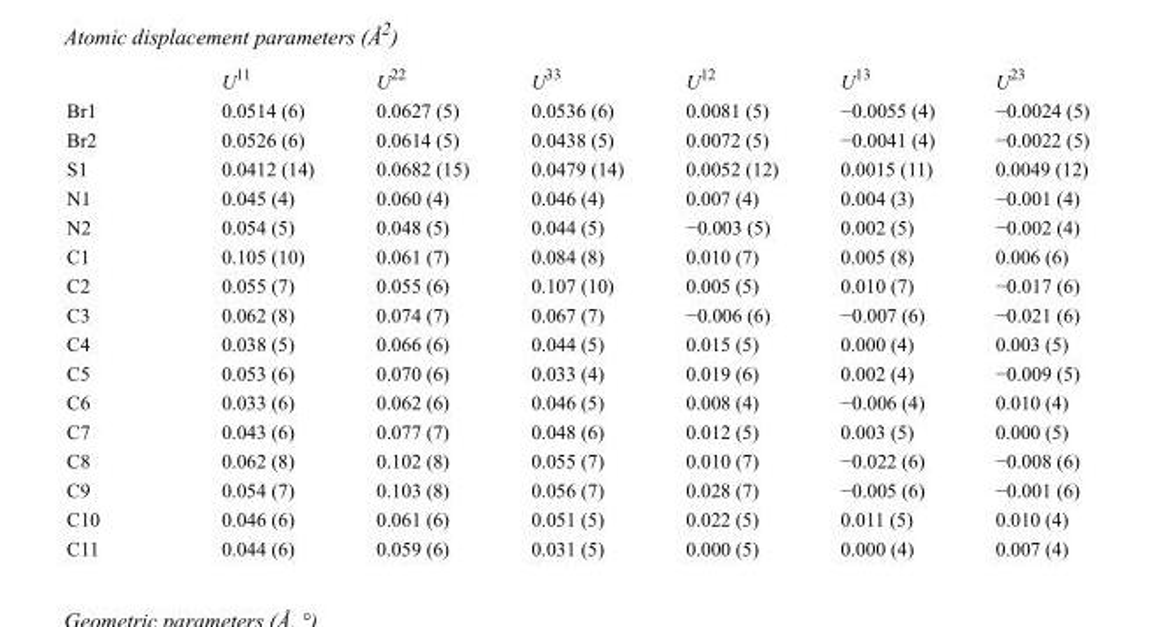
<table><thead><tr><td></td><td>U<sup>11</sup></td><td>U<sup>22</sup></td><td>U<sup>33</sup></td><td>U<sup>12</sup></td><td>U<sup>13</sup></td><td>U<sup>23</sup></td></tr></thead><tbody><tr><td>Br1</td><td>0.0514 (6)</td><td>0.0627 (5)</td><td>0.0536 (6)</td><td>0.0081 (5)</td><td>−0.0055 (4)</td><td>−0.0024 (5)</td></tr><tr><td>Br2</td><td>0.0526 (6)</td><td>0.0614 (5)</td><td>0.0438 (5)</td><td>0.0072 (5)</td><td>−0.0041 (4)</td><td>−0.0022 (5)</td></tr><tr><td>S1</td><td>0.0412 (14)</td><td>0.0682 (15)</td><td>0.0479 (14)</td><td>0.0052 (12)</td><td>0.0015 (11)</td><td>0.0049 (12)</td></tr><tr><td>N1</td><td>0.045 (4)</td><td>0.060 (4)</td><td>0.046 (4)</td><td>0.007 (4)</td><td>0.004 (3)</td><td>−0.001 (4)</td></tr><tr><td>N2</td><td>0.054 (5)</td><td>0.048 (5)</td><td>0.044 (5)</td><td>−0.003 (5)</td><td>0.002 (5)</td><td>−0.002 (4)</td></tr><tr><td>C1</td><td>0.105 (10)</td><td>0.061 (7)</td><td>0.084 (8)</td><td>0.010 (7)</td><td>0.005 (8)</td><td>0.006 (6)</td></tr><tr><td>C2</td><td>0.055 (7)</td><td>0.055 (6)</td><td>0.107 (10)</td><td>0.005 (5)</td><td>0.010 (7)</td><td>−0.017 (6)</td></tr><tr><td>C3</td><td>0.062 (8)</td><td>0.074 (7)</td><td>0.067 (7)</td><td>−0.006 (6)</td><td>−0.007 (6)</td><td>−0.021 (6)</td></tr><tr><td>C4</td><td>0.038 (5)</td><td>0.066 (6)</td><td>0.044 (5)</td><td>0.015 (5)</td><td>0.000 (4)</td><td>0.003 (5)</td></tr><tr><td>C5</td><td>0.053 (6)</td><td>0.070 (6)</td><td>0.033 (4)</td><td>0.019 (6)</td><td>0.002 (4)</td><td>−0.009 (5)</td></tr><tr><td>C6</td><td>0.033 (6)</td><td>0.062 (6)</td><td>0.046 (5)</td><td>0.008 (4)</td><td>−0.006 (4)</td><td>0.010 (4)</td></tr><tr><td>C7</td><td>0.043 (6)</td><td>0.077 (7)</td><td>0.048 (6)</td><td>0.012 (5)</td><td>0.003 (5)</td><td>0.000 (5)</td></tr><tr><td>C8</td><td>0.062 (8)</td><td>0.102 (8)</td><td>0.055 (7)</td><td>0.010 (7)</td><td>−0.022 (6)</td><td>−0.008 (6)</td></tr><tr><td>C9</td><td>0.054 (7)</td><td>0.103 (8)</td><td>0.056 (7)</td><td>0.028 (7)</td><td>−0.005 (6)</td><td>−0.001 (6)</td></tr><tr><td>C10</td><td>0.046 (6)</td><td>0.061 (6)</td><td>0.051 (5)</td><td>0.022 (5)</td><td>0.011 (5)</td><td>0.010 (4)</td></tr><tr><td>C11</td><td>0.044 (6)</td><td>0.059 (6)</td><td>0.031 (5)</td><td>0.000 (5)</td><td>0.000 (4)</td><td>0.007 (4)</td></tr></tbody></table>